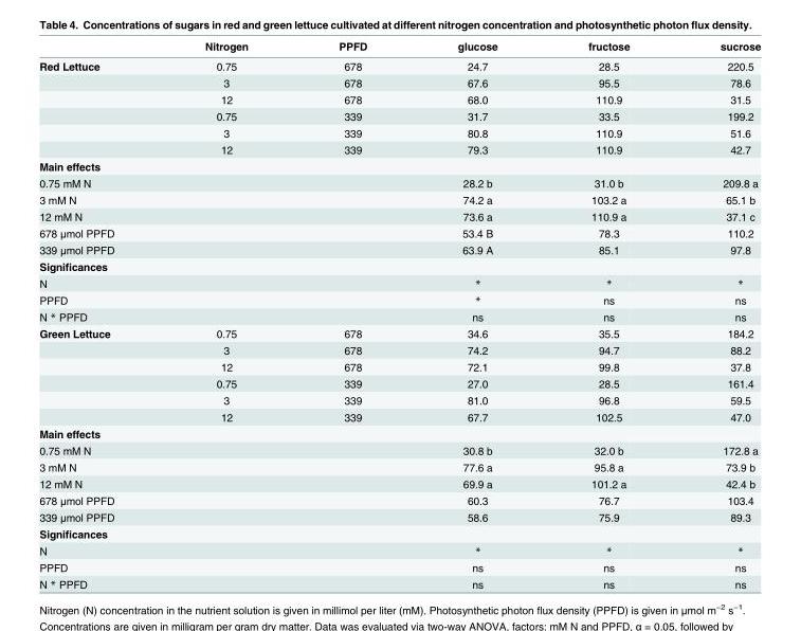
<table><thead><tr><td></td><td>Nitrogen</td><td>PPFD</td><td>glucose</td><td>fructose</td><td>sucrose</td></tr></thead><tbody><tr><td rowspan="6">Red Lettuce</td><td>0.75</td><td>678</td><td>24.7</td><td>28.5</td><td>220.5</td></tr><tr><td>3</td><td>678</td><td>67.6</td><td>95.5</td><td>78.6</td></tr><tr><td>12</td><td>678</td><td>68.0</td><td>110.9</td><td>31.5</td></tr><tr><td>0.75</td><td>339</td><td>31.7</td><td>33.5</td><td>199.2</td></tr><tr><td>3</td><td>339</td><td>80.8</td><td>110.9</td><td>51.6</td></tr><tr><td>12</td><td>339</td><td>79.3</td><td>110.9</td><td>42.7</td></tr><tr><td colspan="6">Main effects</td></tr><tr><td>0.75 mM N</td><td></td><td></td><td>28.2 b</td><td>31.0 b</td><td>209.8 a</td></tr><tr><td>3 mM N</td><td></td><td></td><td>74.2 a</td><td>103.2 a</td><td>65.1 b</td></tr><tr><td>12 mM N</td><td></td><td></td><td>73.6 a</td><td>110.9 a</td><td>37.1 c</td></tr><tr><td>678 μmol PPFD</td><td></td><td></td><td>53.4 B</td><td>78.3</td><td>110.2</td></tr><tr><td>339 μmol PPFD</td><td></td><td></td><td>63.9 A</td><td>85.1</td><td>97.8</td></tr><tr><td colspan="6">Significances</td></tr><tr><td>N</td><td></td><td></td><td>*</td><td>*</td><td>*</td></tr><tr><td>PPFD</td><td></td><td></td><td>*</td><td>ns</td><td>ns</td></tr><tr><td>N * PPFD</td><td></td><td></td><td>ns</td><td>ns</td><td>ns</td></tr><tr><td rowspan="6">Green Lettuce</td><td>0.75</td><td>678</td><td>34.6</td><td>35.5</td><td>184.2</td></tr><tr><td>3</td><td>678</td><td>74.2</td><td>94.7</td><td>88.2</td></tr><tr><td>12</td><td>678</td><td>72.1</td><td>99.8</td><td>37.8</td></tr><tr><td>0.75</td><td>339</td><td>27.0</td><td>28.5</td><td>161.4</td></tr><tr><td>3</td><td>339</td><td>81.0</td><td>96.8</td><td>59.5</td></tr><tr><td>12</td><td>339</td><td>67.7</td><td>102.5</td><td>47.0</td></tr><tr><td colspan="6">Main effects</td></tr><tr><td>0.75 mM N</td><td></td><td></td><td>30.8 b</td><td>32.0 b</td><td>172.8 a</td></tr><tr><td>3 mM N</td><td></td><td></td><td>77.6 a</td><td>95.8 a</td><td>73.9 b</td></tr><tr><td>12 mM N</td><td></td><td></td><td>69.9 a</td><td>101.2 a</td><td>42.4 b</td></tr><tr><td>678 μmol PPFD</td><td></td><td></td><td>60.3</td><td>76.7</td><td>103.4</td></tr><tr><td>339 μmol PPFD</td><td></td><td></td><td>58.6</td><td>75.9</td><td>89.3</td></tr><tr><td colspan="6">Significances</td></tr><tr><td>N</td><td></td><td></td><td>*</td><td>*</td><td>*</td></tr><tr><td>PPFD</td><td></td><td></td><td>ns</td><td>ns</td><td>ns</td></tr><tr><td>N * PPFD</td><td></td><td></td><td>ns</td><td>ns</td><td>ns</td></tr></tbody></table>